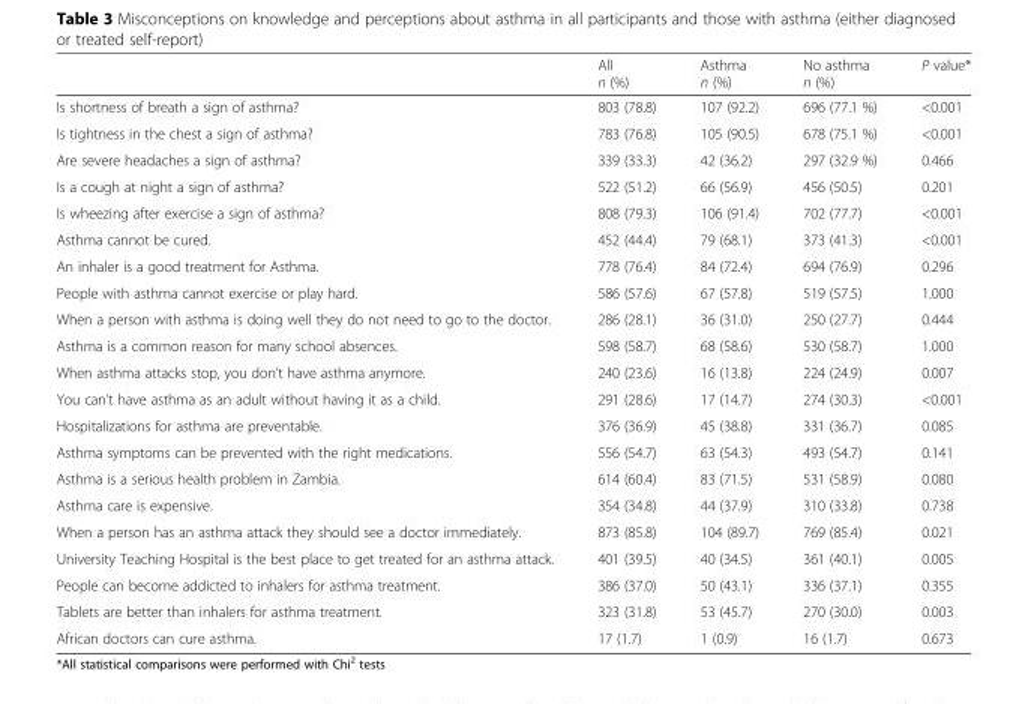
<table><thead><tr><td></td><td>All n (%)</td><td>Asthma n (%)</td><td>No asthma n (%)</td><td>P value*</td></tr></thead><tbody><tr><td>Is shortness of breath a sign of asthma?</td><td>803 (78.8)</td><td>107 (92.2)</td><td>696 (77.1 %)</td><td>&lt;0.001</td></tr><tr><td>Is tightness in the chest a sign of asthma?</td><td>783 (76.8)</td><td>105 (90.5)</td><td>678 (75.1 %)</td><td>&lt;0.001</td></tr><tr><td>Are severe headaches a sign of asthma?</td><td>339 (33.3)</td><td>42 (36.2)</td><td>297 (32.9 %)</td><td>0.466</td></tr><tr><td>Is a cough at night a sign of asthma?</td><td>522 (51.2)</td><td>66 (56.9)</td><td>456 (50.5)</td><td>0.201</td></tr><tr><td>Is wheezing after exercise a sign of asthma?</td><td>808 (79.3)</td><td>106 (91.4)</td><td>702 (77.7)</td><td>&lt;0.001</td></tr><tr><td>Asthma cannot be cured.</td><td>452 (44.4)</td><td>79 (68.1)</td><td>373 (41.3)</td><td>&lt;0.001</td></tr><tr><td>An inhaler is a good treatment for Asthma.</td><td>778 (76.4)</td><td>84 (72.4)</td><td>694 (76.9)</td><td>0.296</td></tr><tr><td>People with asthma cannot exercise or play hard.</td><td>586 (57.6)</td><td>67 (57.8)</td><td>519 (57.5)</td><td>1.000</td></tr><tr><td>When a person with asthma is doing well they do not need to go to the doctor.</td><td>286 (28.1)</td><td>36 (31.0)</td><td>250 (27.7)</td><td>0.444</td></tr><tr><td>Asthma is a common reason for many school absences.</td><td>598 (58.7)</td><td>68 (58.6)</td><td>530 (58.7)</td><td>1.000</td></tr><tr><td>When asthma attacks stop, you don’t have asthma anymore.</td><td>240 (23.6)</td><td>16 (13.8)</td><td>224 (24.9)</td><td>0.007</td></tr><tr><td>You can’t have asthma as an adult without having it as a child.</td><td>291 (28.6)</td><td>17 (14.7)</td><td>274 (30.3)</td><td>&lt;0.001</td></tr><tr><td>Hospitalizations for asthma are preventable.</td><td>376 (36.9)</td><td>45 (38.8)</td><td>331 (36.7)</td><td>0.085</td></tr><tr><td>Asthma symptoms can be prevented with the right medications.</td><td>556 (54.7)</td><td>63 (54.3)</td><td>493 (54.7)</td><td>0.141</td></tr><tr><td>Asthma is a serious health problem in Zambia.</td><td>614 (60.4)</td><td>83 (71.5)</td><td>531 (58.9)</td><td>0.080</td></tr><tr><td>Asthma care is expensive.</td><td>354 (34.8)</td><td>44 (37.9)</td><td>310 (33.8)</td><td>0.738</td></tr><tr><td>When a person has an asthma attack they should see a doctor immediately.</td><td>873 (85.8)</td><td>104 (89.7)</td><td>769 (85.4)</td><td>0.021</td></tr><tr><td>University Teaching Hospital is the best place to get treated for an asthma attack.</td><td>401 (39.5)</td><td>40 (34.5)</td><td>361 (40.1)</td><td>0.005</td></tr><tr><td>People can become addicted to inhalers for asthma treatment.</td><td>386 (37.0)</td><td>50 (43.1)</td><td>336 (37.1)</td><td>0.355</td></tr><tr><td>Tablets are better than inhalers for asthma treatment.</td><td>323 (31.8)</td><td>53 (45.7)</td><td>270 (30.0)</td><td>0.003</td></tr><tr><td>African doctors can cure asthma.</td><td>17 (1.7)</td><td>1 (0.9)</td><td>16 (1.7)</td><td>0.673</td></tr></tbody></table>